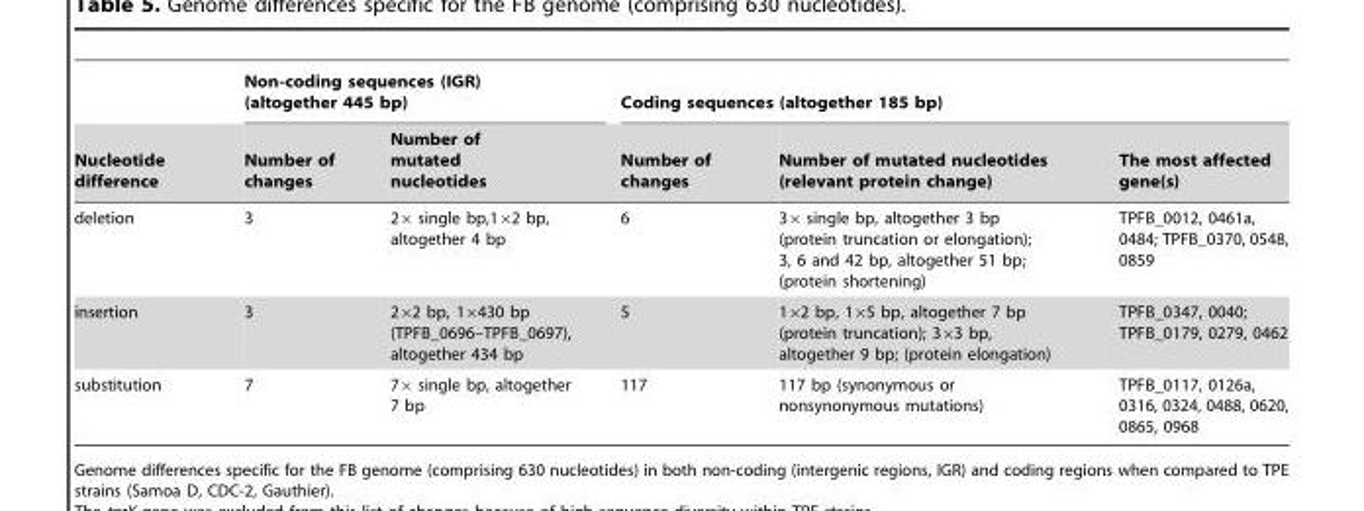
<table><thead><tr><td rowspan="2">Nucleotide difference</td><td colspan="2">Non-coding sequences (IGR) (altogether 445 bp)</td><td colspan="3">Coding sequences (altogether 185 bp)</td></tr><tr><td>Number of changes</td><td>Number of mutated nucleotides</td><td>Number of changes</td><td>Number of mutated nucleotides (relevant protein change)</td><td>The most affected gene(s)</td></tr></thead><tbody><tr><td>deletion</td><td>3</td><td>2× single bp,1×2 bp, altogether 4 bp</td><td>6</td><td>3× single bp, altogether 3 bp (protein truncation or elongation); 3, 6 and 42 bp, altogether 51 bp; (protein shortening)</td><td>TPFB_0012, 0461a, 0484; TPFB_0370, 0548, 0859</td></tr><tr><td>insertion</td><td>3</td><td>2×2 bp, 1×430 bp (TPFB_0696–TPFB_0697), altogether 434 bp</td><td>5</td><td>1×2 bp, 1×5 bp, altogether 7 bp (protein truncation); 3×3 bp, altogether 9 bp; (protein elongation)</td><td>TPFB_0347, 0040; TPFB_0179, 0279, 0462</td></tr><tr><td>substitution</td><td>7</td><td>7× single bp, altogether 7 bp</td><td>117</td><td>117 bp (synonymous or nonsynonymous mutations)</td><td>TPFB_0117, 0126a, 0316, 0324, 0488, 0620, 0865, 0968</td></tr></tbody></table>